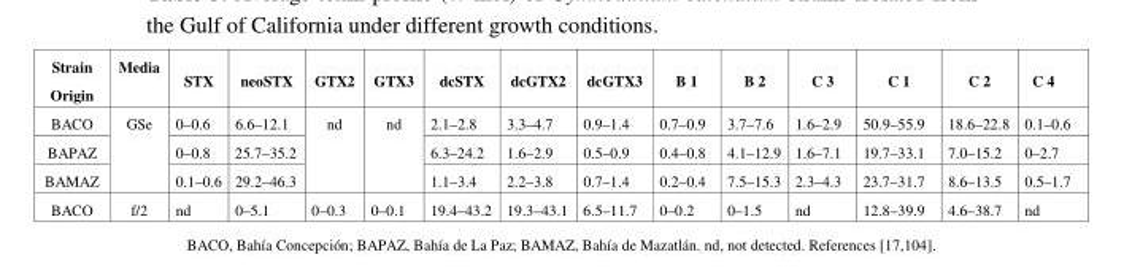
<table><thead><tr><td>Strain Origin</td><td>Media</td><td>STX</td><td>neoSTX</td><td>GTX2</td><td>GTX3</td><td>dcSTX</td><td>dcGTX2</td><td>dcGTX3</td><td>B 1</td><td>B 2</td><td>C 3</td><td>C 1</td><td>C 2</td><td>C 4</td></tr></thead><tbody><tr><td>BACO</td><td rowspan="3">GSe</td><td>0–0.6</td><td>6.6–12.1</td><td rowspan="3">nd</td><td rowspan="3">nd</td><td>2.1–2.8</td><td>3.3–4.7</td><td>0.9–1.4</td><td>0.7–0.9</td><td>3.7–7.6</td><td>1.6–2.9</td><td>50.9–55.9</td><td>18.6–22.8</td><td>0.1–0.6</td></tr><tr><td>BAPAZ</td><td>0–0.8</td><td>25.7–35.2</td><td>6.3–24.2</td><td>1.6–2.9</td><td>0.5–0.9</td><td>0.4–0.8</td><td>4.1–12.9</td><td>1.6–7.1</td><td>19.7–33.1</td><td>7.0–15.2</td><td>0–2.7</td></tr><tr><td>BAMAZ</td><td>0.1–0.6</td><td>29.2–46.3</td><td>1.1–3.4</td><td>2.2–3.8</td><td>0.7–1.4</td><td>0.2–0.4</td><td>7.5–15.3</td><td>2.3–4.3</td><td>23.7–31.7</td><td>8.6–13.5</td><td>0.5–1.7</td></tr><tr><td>BACO</td><td>f/2</td><td>nd</td><td>0–5.1</td><td>0–0.3</td><td>0–0.1</td><td>19.4–43.2</td><td>19.3–43.1</td><td>6.5–11.7</td><td>0–0.2</td><td>0–1.5</td><td>nd</td><td>12.8–39.9</td><td>4.6–38.7</td><td>nd</td></tr></tbody></table>